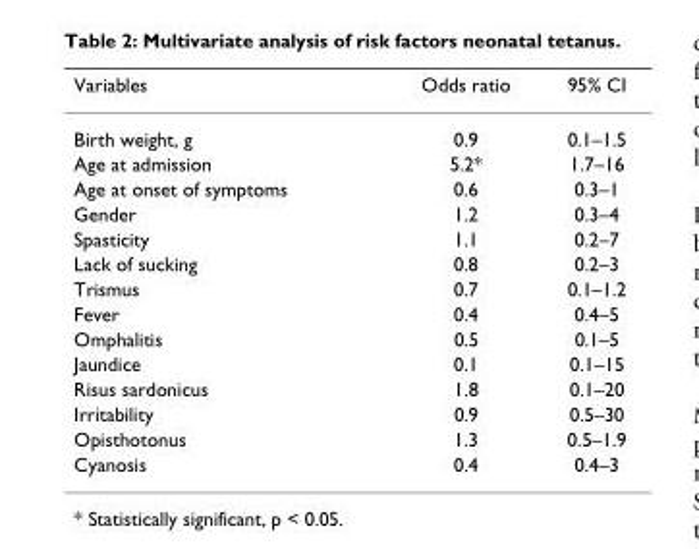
<table><thead><tr><td>Variables</td><td>Odds ratio</td><td>95% CI</td></tr></thead><tbody><tr><td>Birth weight, g</td><td>0.9</td><td>0.1–1.5</td></tr><tr><td>Age at admission</td><td>5.2*</td><td>1.7–16</td></tr><tr><td>Age at onset of symptoms</td><td>0.6</td><td>0.3–1</td></tr><tr><td>Gender</td><td>1.2</td><td>0.3–4</td></tr><tr><td>Spasticity</td><td>1.1</td><td>0.2–7</td></tr><tr><td>Lack of sucking</td><td>0.8</td><td>0.2–3</td></tr><tr><td>Trismus</td><td>0.7</td><td>0.1–1.2</td></tr><tr><td>Fever</td><td>0.4</td><td>0.4–5</td></tr><tr><td>Omphalitis</td><td>0.5</td><td>0.1–5</td></tr><tr><td>Jaundice</td><td>0.1</td><td>0.1–15</td></tr><tr><td>Risus sardonicus</td><td>1.8</td><td>0.1–20</td></tr><tr><td>Irritability</td><td>0.9</td><td>0.5–30</td></tr><tr><td>Opisthotonus</td><td>1.3</td><td>0.5–1.9</td></tr><tr><td>Cyanosis</td><td>0.4</td><td>0.4–3</td></tr></tbody></table>